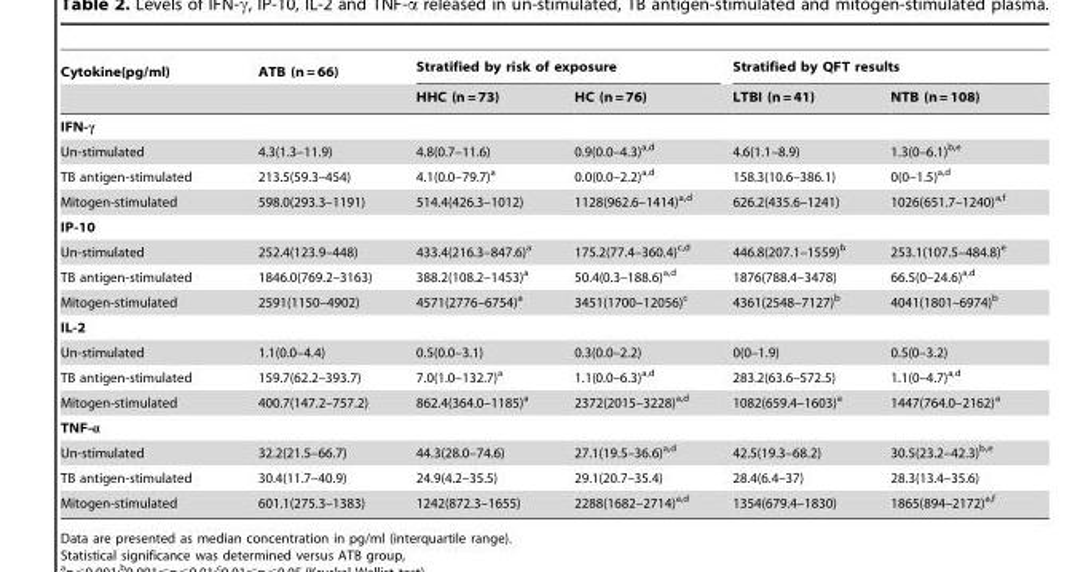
<table><thead><tr><td rowspan="2">Cytokine(pg/ml)</td><td rowspan="2">ATB (n = 66)</td><td colspan="2">Stratified by risk of exposure</td><td colspan="2">Stratified by QFT results</td></tr><tr><td>HHC (n = 73)</td><td>HC (n = 76)</td><td>LTBI (n = 41)</td><td>NTB (n = 108)</td></tr></thead><tbody><tr><td colspan="6">IFN-γ</td></tr><tr><td>Un-stimulated</td><td>4.3(1.3–11.9)</td><td>4.8(0.7–11.6)</td><td>0.9(0.0–4.3)a,d</td><td>4.6(1.1–8.9)</td><td>1.3(0–6.1)<sup>b,e</sup></td></tr><tr><td>TB antigen-stimulated</td><td>213.5(59.3–454)</td><td>4.1(0.0–79.7)<sup>a</sup></td><td>0.0(0.0–2.2)a,d</td><td>158.3(10.6–386.1)</td><td>0(0–1.5)a,d</td></tr><tr><td>Mitogen-stimulated</td><td>598.0(293.3–1191)</td><td>514.4(426.3–1012)</td><td>1128(962.6–1414)a,d</td><td>626.2(435.6–1241)</td><td>1026(651.7–1240)a,f</td></tr><tr><td colspan="6">IP-10</td></tr><tr><td>Un-stimulated</td><td>252.4(123.9–448)</td><td>433.4(216.3–847.6)<sup>a</sup></td><td>175.2(77.4–360.4)<sup>c,d</sup></td><td>446.8(207.1–1559)<sup>b</sup></td><td>253.1(107.5–484.8)<sup>e</sup></td></tr><tr><td>TB antigen-stimulated</td><td>1846.0(769.2–3163)</td><td>388.2(108.2–1453)<sup>a</sup></td><td>50.4(0.3–188.6)a,d</td><td>1876(788.4–3478)</td><td>66.5(0–24.6)a,d</td></tr><tr><td>Mitogen-stimulated</td><td>2591(1150–4902)</td><td>4571(2776–6754)<sup>a</sup></td><td>3451(1700–12056)<sup>c</sup></td><td>4361(2548–7127)<sup>b</sup></td><td>4041(1801–6974)<sup>b</sup></td></tr><tr><td colspan="6">IL-2</td></tr><tr><td>Un-stimulated</td><td>1.1(0.0–4.4)</td><td>0.5(0.0–3.1)</td><td>0.3(0.0–2.2)</td><td>0(0–1.9)</td><td>0.5(0–3.2)</td></tr><tr><td>TB antigen-stimulated</td><td>159.7(62.2–393.7)</td><td>7.0(1.0–132.7)<sup>a</sup></td><td>1.1(0.0–6.3)a,d</td><td>283.2(63.6–572.5)</td><td>1.1(0–4.7)a,d</td></tr><tr><td>Mitogen-stimulated</td><td>400.7(147.2–757.2)</td><td>862.4(364.0–1185)<sup>a</sup></td><td>2372(2015–3228)a,d</td><td>1082(659.4–1603)<sup>a</sup></td><td>1447(764.0–2162)<sup>a</sup></td></tr><tr><td colspan="6">TNF-α</td></tr><tr><td>Un-stimulated</td><td>32.2(21.5–66.7)</td><td>44.3(28.0–74.6)</td><td>27.1(19.5–36.6)a,d</td><td>42.5(19.3–68.2)</td><td>30.5(23.2–42.3)<sup>b,e</sup></td></tr><tr><td>TB antigen-stimulated</td><td>30.4(11.7–40.9)</td><td>24.9(4.2–35.5)</td><td>29.1(20.7–35.4)</td><td>28.4(6.4–37)</td><td>28.3(13.4–35.6)</td></tr><tr><td>Mitogen-stimulated</td><td>601.1(275.3–1383)</td><td>1242(872.3–1655)</td><td>2288(1682–2714)a,d</td><td>1354(679.4–1830)</td><td>1865(894–2172)a,f</td></tr></tbody></table>